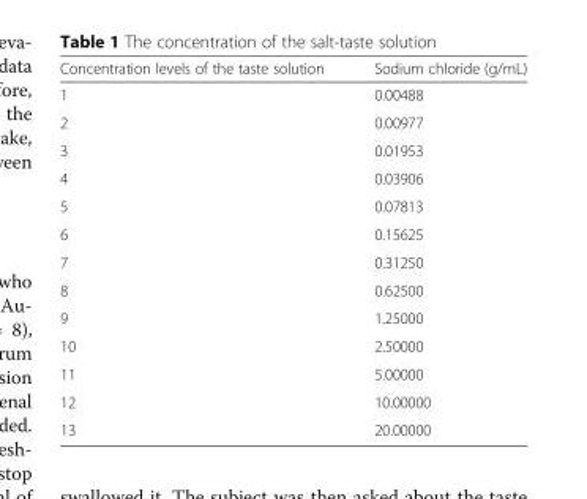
<table><thead><tr><td>Concentration levels of the taste solution</td><td>Sodium chloride (g/mL)</td></tr></thead><tbody><tr><td>1</td><td>0.00488</td></tr><tr><td>2</td><td>0.00977</td></tr><tr><td>3</td><td>0.01953</td></tr><tr><td>4</td><td>0.03906</td></tr><tr><td>5</td><td>0.07813</td></tr><tr><td>6</td><td>0.15625</td></tr><tr><td>7</td><td>0.31250</td></tr><tr><td>8</td><td>0.62500</td></tr><tr><td>9</td><td>1.25000</td></tr><tr><td>10</td><td>2.50000</td></tr><tr><td>11</td><td>5.00000</td></tr><tr><td>12</td><td>10.00000</td></tr><tr><td>13</td><td>20.00000</td></tr></tbody></table>